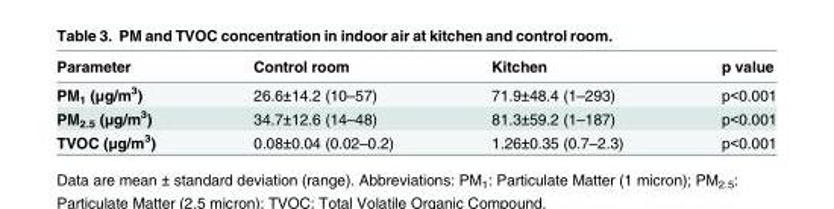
<table><thead><tr><td>Parameter</td><td>Control room</td><td>Kitchen</td><td>p value</td></tr></thead><tbody><tr><td>PM<sub>1</sub> (μg/m<sup>3</sup>)</td><td>26.6±14.2 (10–57)</td><td>71.9±48.4 (1–293)</td><td>p&lt;0.001</td></tr><tr><td>PM<sub>2.5</sub> (μg/m<sup>3</sup>)</td><td>34.7±12.6 (14–48)</td><td>81.3±59.2 (1–187)</td><td>p&lt;0.001</td></tr><tr><td>TVOC (μg/m<sup>3</sup>)</td><td>0.08±0.04 (0.02–0.2)</td><td>1.26±0.35 (0.7–2.3)</td><td>p&lt;0.001</td></tr></tbody></table>